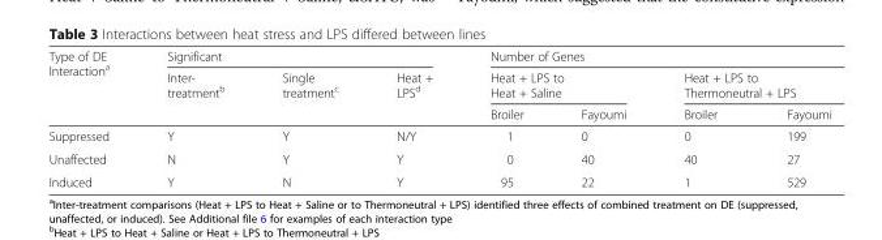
<table><thead><tr><td rowspan="3">Type of DE Interaction<sup>a</sup></td><td colspan="3">Significant</td><td colspan="4">Number of Genes</td></tr><tr><td rowspan="2">Inter- treatment<sup>b</sup></td><td rowspan="2">Single treatment<sup>c</sup></td><td rowspan="2">Heat + LPS<sup>d</sup></td><td colspan="2">Heat + LPS to Heat + Saline</td><td colspan="2">Heat + LPS to Thermoneutral + LPS</td></tr><tr><td>Broiler</td><td>Fayoumi</td><td>Broiler</td><td>Fayoumi</td></tr></thead><tbody><tr><td>Suppressed</td><td>Y</td><td>Y</td><td>N/Y</td><td>1</td><td>0</td><td>0</td><td>199</td></tr><tr><td>Unaffected</td><td>N</td><td>Y</td><td>Y</td><td>0</td><td>40</td><td>40</td><td>27</td></tr><tr><td>Induced</td><td>Y</td><td>N</td><td>Y</td><td>95</td><td>22</td><td>1</td><td>529</td></tr></tbody></table>